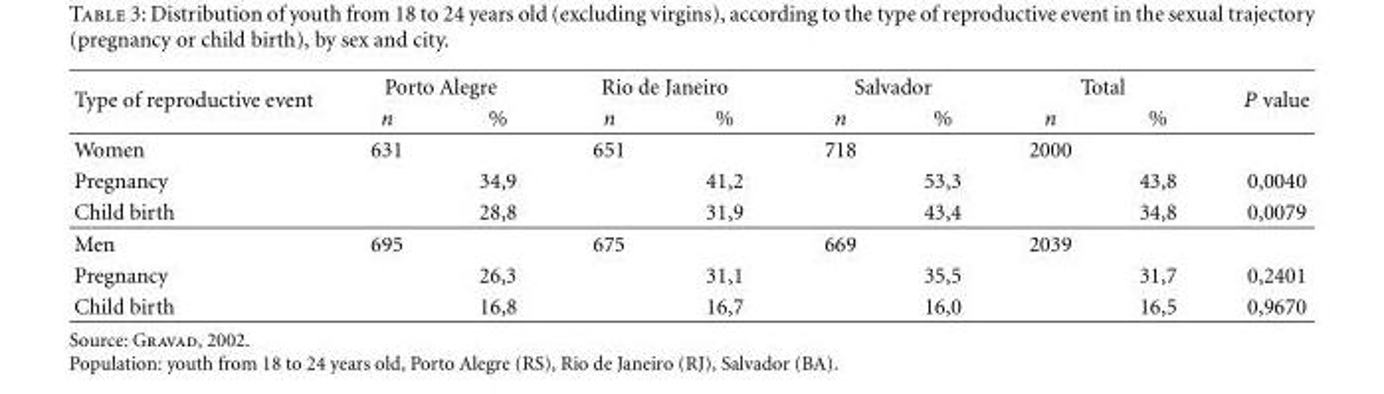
<table><thead><tr><td rowspan="2">Type of reproductive event</td><td colspan="2">Porto Alegre</td><td colspan="2">Rio de Janeiro</td><td colspan="2">Salvador</td><td colspan="2">Total</td><td rowspan="2">P value</td></tr><tr><td>n</td><td>%</td><td>n</td><td>%</td><td>n</td><td>%</td><td>n</td><td>%</td></tr></thead><tbody><tr><td>Women</td><td>631</td><td></td><td>651</td><td></td><td>718</td><td></td><td>2000</td><td></td><td></td></tr><tr><td>Pregnancy</td><td></td><td>34,9</td><td></td><td>41,2</td><td></td><td>53,3</td><td></td><td>43,8</td><td>0,0040</td></tr><tr><td>Child birth</td><td></td><td>28,8</td><td></td><td>31,9</td><td></td><td>43,4</td><td></td><td>34,8</td><td>0,0079</td></tr><tr><td>Men</td><td>695</td><td></td><td>675</td><td></td><td>669</td><td></td><td>2039</td><td></td><td></td></tr><tr><td>Pregnancy</td><td></td><td>26,3</td><td></td><td>31,1</td><td></td><td>35,5</td><td></td><td>31,7</td><td>0,2401</td></tr><tr><td>Child birth</td><td></td><td>16,8</td><td></td><td>16,7</td><td></td><td>16,0</td><td></td><td>16,5</td><td>0,9670</td></tr></tbody></table>